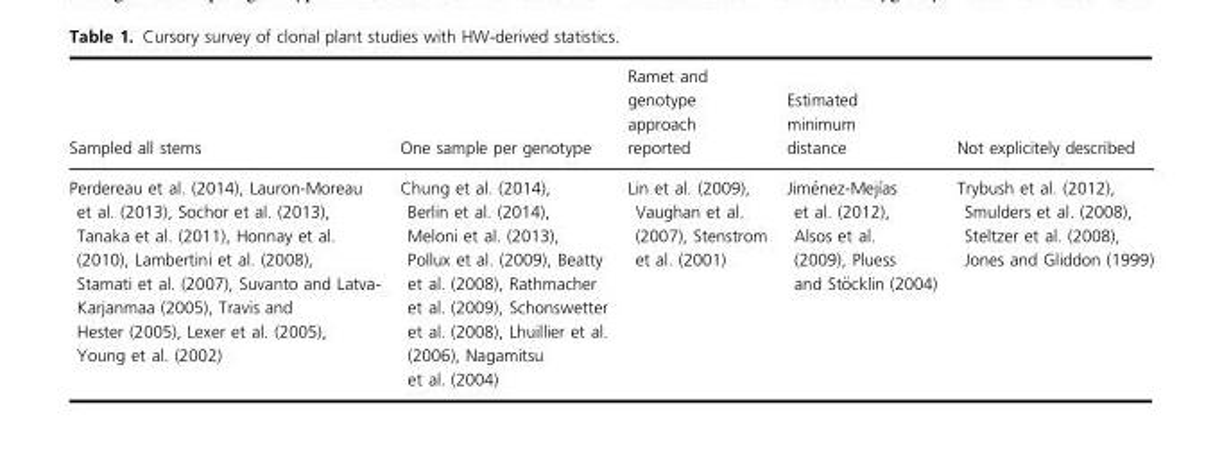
<table><thead><tr><td>Sampled all stems</td><td>One sample per genotype</td><td>Ramet and genotype approach reported</td><td>Estimated minimum distance</td><td>Not explicitely described</td></tr></thead><tbody><tr><td>Perdereau et al. (2014), Lauron-Moreau et al. (2013), Sochor et al. (2013), Tanaka et al. (2011), Honnay et al. (2010), Lambertini et al. (2008), Stamati et al. (2007), Suvanto and Latva- Karjanmaa (2005), Travis and Hester (2005), Lexer et al. (2005), Young et al. (2002)</td><td>Chung et al. (2014), Berlin et al. (2014), Meloni et al. (2013), Pollux et al. (2009), Beatty et al. (2008), Rathmacher et al. (2009), Schonswetter et al. (2008), Lhuillier et al. (2006), Nagamitsu et al. (2004)</td><td>Lin et al. (2009), Vaughan et al. (2007), Stenstrom et al. (2001)</td><td>Jim�enez-Mej�ıas et al. (2012), Alsos et al. (2009), Pluess and St€ocklin (2004)</td><td>Trybush et al. (2012), Smulders et al. (2008), Steltzer et al. (2008), Jones and Gliddon (1999)</td></tr></tbody></table>